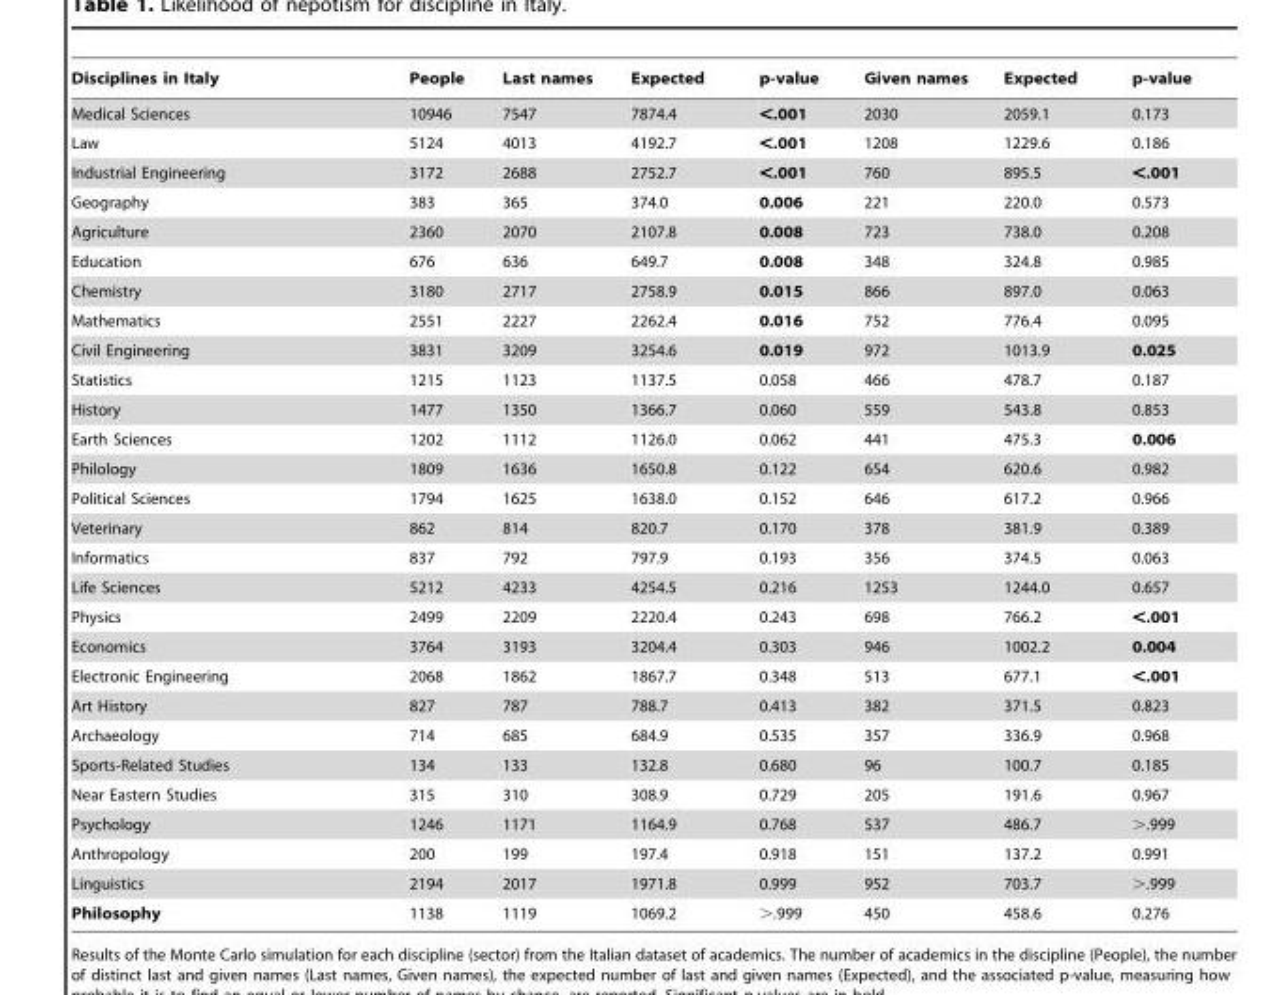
<table><thead><tr><td>Disciplines in Italy</td><td>People</td><td>Last names</td><td>Expected</td><td>p-value</td><td>Given names</td><td>Expected</td><td>p-value</td></tr></thead><tbody><tr><td>Medical Sciences</td><td>10946</td><td>7547</td><td>7874.4</td><td>&lt;.001</td><td>2030</td><td>2059.1</td><td>0.173</td></tr><tr><td>Law</td><td>5124</td><td>4013</td><td>4192.7</td><td>&lt;.001</td><td>1208</td><td>1229.6</td><td>0.186</td></tr><tr><td>Industrial Engineering</td><td>3172</td><td>2688</td><td>2752.7</td><td>&lt;.001</td><td>760</td><td>895.5</td><td>&lt;.001</td></tr><tr><td>Geography</td><td>383</td><td>365</td><td>374.0</td><td>0.006</td><td>221</td><td>220.0</td><td>0.573</td></tr><tr><td>Agriculture</td><td>2360</td><td>2070</td><td>2107.8</td><td>0.008</td><td>723</td><td>738.0</td><td>0.208</td></tr><tr><td>Education</td><td>676</td><td>636</td><td>649.7</td><td>0.008</td><td>348</td><td>324.8</td><td>0.985</td></tr><tr><td>Chemistry</td><td>3180</td><td>2717</td><td>2758.9</td><td>0.015</td><td>866</td><td>897.0</td><td>0.063</td></tr><tr><td>Mathematics</td><td>2551</td><td>2227</td><td>2262.4</td><td>0.016</td><td>752</td><td>776.4</td><td>0.095</td></tr><tr><td>Civil Engineering</td><td>3831</td><td>3209</td><td>3254.6</td><td>0.019</td><td>972</td><td>1013.9</td><td>0.025</td></tr><tr><td>Statistics</td><td>1215</td><td>1123</td><td>1137.5</td><td>0.058</td><td>466</td><td>478.7</td><td>0.187</td></tr><tr><td>History</td><td>1477</td><td>1350</td><td>1366.7</td><td>0.060</td><td>559</td><td>543.8</td><td>0.853</td></tr><tr><td>Earth Sciences</td><td>1202</td><td>1112</td><td>1126.0</td><td>0.062</td><td>441</td><td>475.3</td><td>0.006</td></tr><tr><td>Philology</td><td>1809</td><td>1636</td><td>1650.8</td><td>0.122</td><td>654</td><td>620.6</td><td>0.982</td></tr><tr><td>Political Sciences</td><td>1794</td><td>1625</td><td>1638.0</td><td>0.152</td><td>646</td><td>617.2</td><td>0.966</td></tr><tr><td>Veterinary</td><td>862</td><td>814</td><td>820.7</td><td>0.170</td><td>378</td><td>381.9</td><td>0.389</td></tr><tr><td>Informatics</td><td>837</td><td>792</td><td>797.9</td><td>0.193</td><td>356</td><td>374.5</td><td>0.063</td></tr><tr><td>Life Sciences</td><td>5212</td><td>4233</td><td>4254.5</td><td>0.216</td><td>1253</td><td>1244.0</td><td>0.657</td></tr><tr><td>Physics</td><td>2499</td><td>2209</td><td>2220.4</td><td>0.243</td><td>698</td><td>766.2</td><td>&lt;.001</td></tr><tr><td>Economics</td><td>3764</td><td>3193</td><td>3204.4</td><td>0.303</td><td>946</td><td>1002.2</td><td>0.004</td></tr><tr><td>Electronic Engineering</td><td>2068</td><td>1862</td><td>1867.7</td><td>0.348</td><td>513</td><td>677.1</td><td>&lt;.001</td></tr><tr><td>Art History</td><td>827</td><td>787</td><td>788.7</td><td>0.413</td><td>382</td><td>371.5</td><td>0.823</td></tr><tr><td>Archaeology</td><td>714</td><td>685</td><td>684.9</td><td>0.535</td><td>357</td><td>336.9</td><td>0.968</td></tr><tr><td>Sports-Related Studies</td><td>134</td><td>133</td><td>132.8</td><td>0.680</td><td>96</td><td>100.7</td><td>0.185</td></tr><tr><td>Near Eastern Studies</td><td>315</td><td>310</td><td>308.9</td><td>0.729</td><td>205</td><td>191.6</td><td>0.967</td></tr><tr><td>Psychology</td><td>1246</td><td>1171</td><td>1164.9</td><td>0.768</td><td>537</td><td>486.7</td><td>&gt;.999</td></tr><tr><td>Anthropology</td><td>200</td><td>199</td><td>197.4</td><td>0.918</td><td>151</td><td>137.2</td><td>0.991</td></tr><tr><td>Linguistics</td><td>2194</td><td>2017</td><td>1971.8</td><td>0.999</td><td>952</td><td>703.7</td><td>&gt;.999</td></tr><tr><td>Philosophy</td><td>1138</td><td>1119</td><td>1069.2</td><td>&gt;.999</td><td>450</td><td>458.6</td><td>0.276</td></tr></tbody></table>